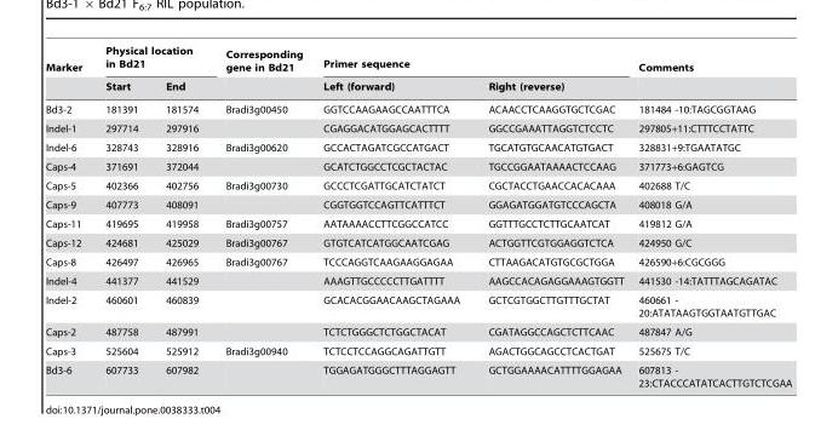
<table><thead><tr><td rowspan="2">Marker</td><td colspan="2">Physical location in Bd21</td><td rowspan="2">Corresponding gene in Bd21</td><td colspan="2">Primer sequence</td><td rowspan="2">Comments</td></tr><tr><td>Start</td><td>End</td><td>Left (forward)</td><td>Right (reverse)</td></tr></thead><tbody><tr><td>Bd3-2</td><td>181391</td><td>181574</td><td>Bradi3g00450</td><td>GGTCCAAGAAGCCAATTTCA</td><td>ACAACCTCAAGGTGCTCGAC</td><td>181484 -10:TAGCGGTAAG</td></tr><tr><td>Indel-1</td><td>297714</td><td>297916</td><td></td><td>CGAGGACATGGAGCACTTTT</td><td>GGCCGAAATTAGGTCTCCTC</td><td>297805+11:CTTTCCTATTC</td></tr><tr><td>Indel-6</td><td>328743</td><td>328916</td><td>Bradi3g00620</td><td>GCCACTAGATCGCCATGACT</td><td>TGCATGTGCAACATGTGACT</td><td>328831+9:TGAATATGC</td></tr><tr><td>Caps-4</td><td>371691</td><td>372044</td><td></td><td>GCATCTGGCCTCGCTACTAC</td><td>TGCCGGAATAAAACTCCAAG</td><td>371773+6:GAGTCG</td></tr><tr><td>Caps-5</td><td>402366</td><td>402756</td><td>Bradi3g00730</td><td>GCCCTCGATTGCATCTATCT</td><td>CGCTACCTGAACCACACAAA</td><td>402688 T/C</td></tr><tr><td>Caps-9</td><td>407773</td><td>408091</td><td></td><td>CGGTGGTCCAGTTCATTTCT</td><td>GGAGATGGATGTCCCAGCTA</td><td>408018 G/A</td></tr><tr><td>Caps-11</td><td>419695</td><td>419958</td><td>Bradi3g00757</td><td>AATAAAACCTTCGGCCATCC</td><td>GGTTTGCCTCTTGCAATCAT</td><td>419812 G/A</td></tr><tr><td>Caps-12</td><td>424681</td><td>425029</td><td>Bradi3g00767</td><td>GTGTCATCATGGCAATCGAG</td><td>ACTGGTTCGTGGAGGTCTCA</td><td>424950 G/C</td></tr><tr><td>Caps-8</td><td>426497</td><td>426965</td><td>Bradi3g00767</td><td>TCCCAGGTCAAGAAGGAGAA</td><td>CTTAAGACATGTGCGCTGGA</td><td>426590+6:CGCGGG</td></tr><tr><td>Indel-4</td><td>441377</td><td>441529</td><td></td><td>AAAGTTGCCCCCTTGATTTT</td><td>AAGCCACAGAGGAAAGTGGTT</td><td>441530 -14:TATTTAGCAGATAC</td></tr><tr><td>Indel-2</td><td>460601</td><td>460839</td><td></td><td>GCACACGGAACAAGCTAGAAA</td><td>GCTCGTGGCTTGTTTGCTAT</td><td>460661 - 20:ATATAAGTGGTAATGTTGAC</td></tr><tr><td>Caps-2</td><td>487758</td><td>487991</td><td></td><td>TCTCTGGGCTCTGGCTACAT</td><td>CGATAGGCCAGCTCTTCAAC</td><td>487847 A/G</td></tr><tr><td>Caps-3</td><td>525604</td><td>525912</td><td>Bradi3g00940</td><td>TCTCCTCCAGGCAGATTGTT</td><td>AGACTGGCAGCCTCACTGAT</td><td>525675 T/C</td></tr><tr><td>Bd3-6</td><td>607733</td><td>607982</td><td></td><td>TGGAGATGGGCTTTAGGAGTT</td><td>GCTGGAAAACATTTTGGAGAA</td><td>607813 - 23:CTACCCATATCACTTGTCTCGAA</td></tr></tbody></table>